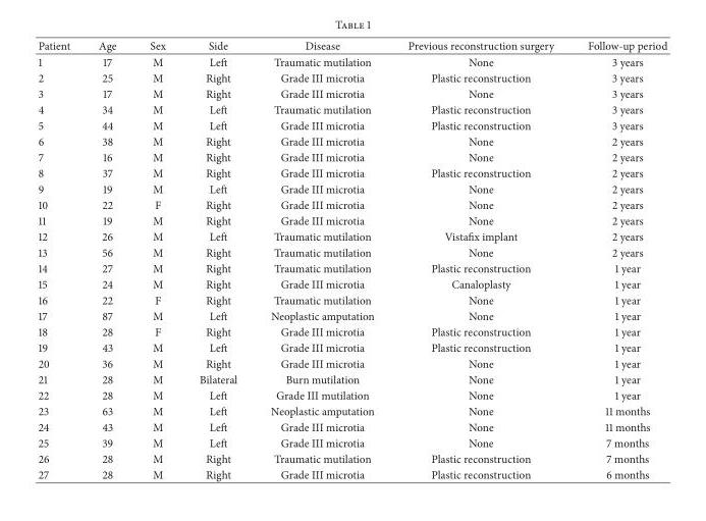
<table><thead><tr><td>Patient</td><td>Age</td><td>Sex</td><td>Side</td><td>Disease</td><td>Previous reconstruction surgery</td><td>Follow-up period</td></tr></thead><tbody><tr><td>1</td><td>17</td><td>M</td><td>Left</td><td>Traumatic mutilation</td><td>None</td><td>3 years</td></tr><tr><td>2</td><td>25</td><td>M</td><td>Right</td><td>Grade III microtia</td><td>Plastic reconstruction</td><td>3 years</td></tr><tr><td>3</td><td>17</td><td>M</td><td>Right</td><td>Grade III microtia</td><td>None</td><td>3 years</td></tr><tr><td>4</td><td>34</td><td>M</td><td>Left</td><td>Traumatic mutilation</td><td>Plastic reconstruction</td><td>3 years</td></tr><tr><td>5</td><td>44</td><td>M</td><td>Left</td><td>Grade III microtia</td><td>Plastic reconstruction</td><td>3 years</td></tr><tr><td>6</td><td>38</td><td>M</td><td>Right</td><td>Grade III microtia</td><td>None</td><td>2 years</td></tr><tr><td>7</td><td>16</td><td>M</td><td>Right</td><td>Grade III microtia</td><td>None</td><td>2 years</td></tr><tr><td>8</td><td>37</td><td>M</td><td>Right</td><td>Grade III microtia</td><td>Plastic reconstruction</td><td>2 years</td></tr><tr><td>9</td><td>19</td><td>M</td><td>Left</td><td>Grade III microtia</td><td>None</td><td>2 years</td></tr><tr><td>10</td><td>22</td><td>F</td><td>Right</td><td>Grade III microtia</td><td>None</td><td>2 years</td></tr><tr><td>11</td><td>19</td><td>M</td><td>Right</td><td>Grade III microtia</td><td>None</td><td>2 years</td></tr><tr><td>12</td><td>26</td><td>M</td><td>Left</td><td>Traumatic mutilation</td><td>Vistafix implant</td><td>2 years</td></tr><tr><td>13</td><td>56</td><td>M</td><td>Right</td><td>Traumatic mutilation</td><td>None</td><td>2 years</td></tr><tr><td>14</td><td>27</td><td>M</td><td>Right</td><td>Traumatic mutilation</td><td>Plastic reconstruction</td><td>1 year</td></tr><tr><td>15</td><td>24</td><td>M</td><td>Right</td><td>Grade III microtia</td><td>Canaloplasty</td><td>1 year</td></tr><tr><td>16</td><td>22</td><td>F</td><td>Right</td><td>Traumatic mutilation</td><td>None</td><td>1 year</td></tr><tr><td>17</td><td>87</td><td>M</td><td>Left</td><td>Neoplastic amputation</td><td>None</td><td>1 year</td></tr><tr><td>18</td><td>28</td><td>F</td><td>Right</td><td>Grade III microtia</td><td>Plastic reconstruction</td><td>1 year</td></tr><tr><td>19</td><td>43</td><td>M</td><td>Left</td><td>Grade III microtia</td><td>Plastic reconstruction</td><td>1 year</td></tr><tr><td>20</td><td>36</td><td>M</td><td>Right</td><td>Grade III microtia</td><td>None</td><td>1 year</td></tr><tr><td>21</td><td>28</td><td>M</td><td>Bilateral</td><td>Burn mutilation</td><td>None</td><td>1 year</td></tr><tr><td>22</td><td>28</td><td>M</td><td>Left</td><td>Grade III mutilation</td><td>None</td><td>1 year</td></tr><tr><td>23</td><td>63</td><td>M</td><td>Left</td><td>Neoplastic amputation</td><td>None</td><td>11 months</td></tr><tr><td>24</td><td>43</td><td>M</td><td>Left</td><td>Grade III microtia</td><td>None</td><td>11 months</td></tr><tr><td>25</td><td>39</td><td>M</td><td>Left</td><td>Grade III microtia</td><td>None</td><td>7 months</td></tr><tr><td>26</td><td>28</td><td>M</td><td>Right</td><td>Traumatic mutilation</td><td>Plastic reconstruction</td><td>7 months</td></tr><tr><td>27</td><td>28</td><td>M</td><td>Right</td><td>Grade III microtia</td><td>Plastic reconstruction</td><td>6 months</td></tr></tbody></table>